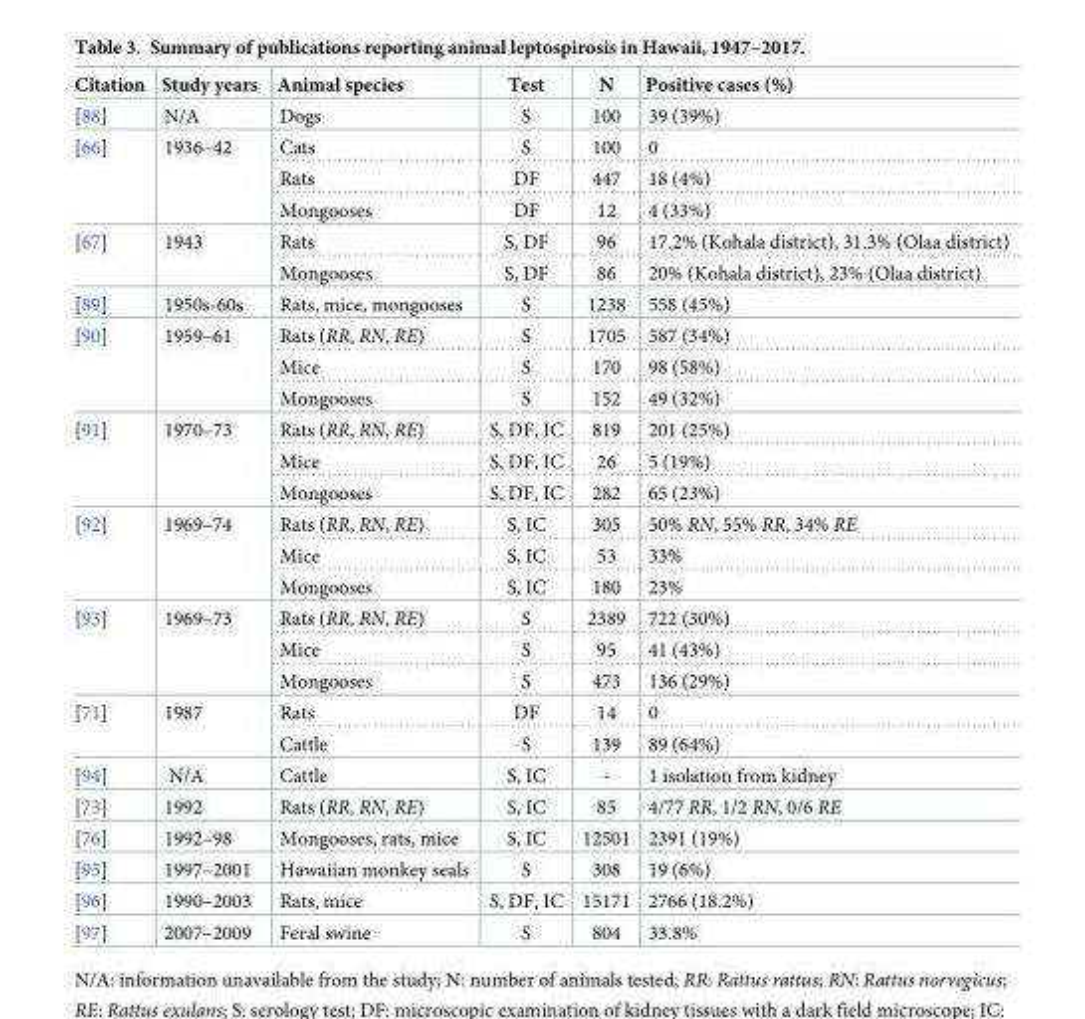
<table><thead><tr><td>Citation</td><td>Study years</td><td>Animal species</td><td>Test</td><td>N</td><td>Positive cases (%)</td></tr></thead><tbody><tr><td>[88]</td><td>N/A</td><td>Dogs</td><td>S</td><td>100</td><td>39 (39%)</td></tr><tr><td rowspan="3">[66]</td><td rowspan="3">1936–42</td><td>Cats</td><td>S</td><td>100</td><td>0</td></tr><tr><td>Rats</td><td>DF</td><td>447</td><td>18 (4%)</td></tr><tr><td>Mongooses</td><td>DF</td><td>12</td><td>4 (33%)</td></tr><tr><td rowspan="2">[67]</td><td rowspan="2">1943</td><td>Rats</td><td>S, DF</td><td>96</td><td>17.2% (Kohala district), 31.3% (Olaa district)</td></tr><tr><td>Mongooses</td><td>S, DF</td><td>86</td><td>20% (Kohala district), 23% (Olaa district)</td></tr><tr><td>[89]</td><td>1950s-60s</td><td>Rats, mice, mongooses</td><td>S</td><td>1238</td><td>558 (45%)</td></tr><tr><td rowspan="3">[90]</td><td rowspan="3">1959–61</td><td>Rats (RR, RN, RE)</td><td>S</td><td>1705</td><td>587 (34%)</td></tr><tr><td>Mice</td><td>S</td><td>170</td><td>98 (58%)</td></tr><tr><td>Mongooses</td><td>S</td><td>152</td><td>49 (32%)</td></tr><tr><td rowspan="3">[91]</td><td rowspan="3">1970–73</td><td>Rats (RR, RN, RE)</td><td>S, DF, IC</td><td>819</td><td>201 (25%)</td></tr><tr><td>Mice</td><td>S, DF, IC</td><td>26</td><td>5 (19%)</td></tr><tr><td>Mongooses</td><td>S, DF, IC</td><td>282</td><td>65 (23%)</td></tr><tr><td rowspan="3">[92]</td><td rowspan="3">1969–74</td><td>Rats (RR, RN, RE)</td><td>S, IC</td><td>305</td><td>50% RN, 55% RR, 34% RE</td></tr><tr><td>Mice</td><td>S, IC</td><td>53</td><td>33%</td></tr><tr><td>Mongooses</td><td>S, IC</td><td>180</td><td>23%</td></tr><tr><td rowspan="3">[93]</td><td rowspan="3">1969–73</td><td>Rats (RR, RN, RE)</td><td>S</td><td>2389</td><td>722 (30%)</td></tr><tr><td>Mice</td><td>S</td><td>95</td><td>41 (43%)</td></tr><tr><td>Mongooses</td><td>S</td><td>473</td><td>136 (29%)</td></tr><tr><td rowspan="2">[71]</td><td rowspan="2">1987</td><td>Rats</td><td>DF</td><td>14</td><td>0</td></tr><tr><td>Cattle</td><td>S</td><td>139</td><td>89 (64%)</td></tr><tr><td>[94]</td><td>N/A</td><td>Cattle</td><td>S, IC</td><td>-</td><td>1 isolation from kidney</td></tr><tr><td>[73]</td><td>1992</td><td>Rats (RR, RN, RE)</td><td>S, IC</td><td>85</td><td>4/77 RR, 1/2 RN, 0/6 RE</td></tr><tr><td>[76]</td><td>1992–98</td><td>Mongooses, rats, mice</td><td>S, IC</td><td>12501</td><td>2391 (19%)</td></tr><tr><td>[95]</td><td>1997–2001</td><td>Hawaiian monkey seals</td><td>S</td><td>308</td><td>19 (6%)</td></tr><tr><td>[96]</td><td>1990–2003</td><td>Rats, mice</td><td>S, DF, IC</td><td>15171</td><td>2766 (18.2%)</td></tr><tr><td>[97]</td><td>2007–2009</td><td>Feral swine</td><td>S</td><td>804</td><td>33.8%</td></tr></tbody></table>